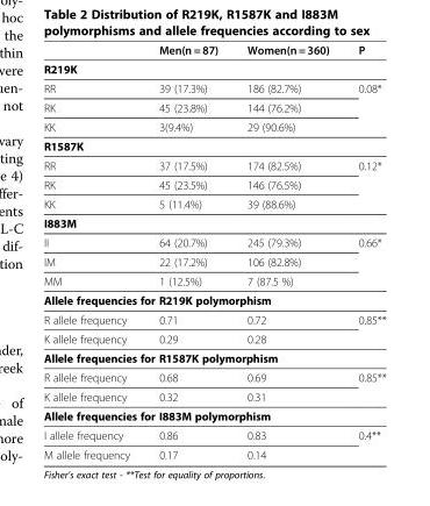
<table><thead><tr><td></td><td>Men(n = 87)</td><td>Women(n = 360)</td><td>P</td></tr></thead><tbody><tr><td colspan="4">R219K</td></tr><tr><td>RR</td><td>39 (17.3%)</td><td>186 (82.7%)</td><td rowspan="3">0.08*</td></tr><tr><td>RK</td><td>45 (23.8%)</td><td>144 (76.2%)</td></tr><tr><td>KK</td><td>3(9.4%)</td><td>29 (90.6%)</td></tr><tr><td colspan="4">R1587K</td></tr><tr><td>RR</td><td>37 (17.5%)</td><td>174 (82.5%)</td><td rowspan="3">0.12*</td></tr><tr><td>RK</td><td>45 (23.5%)</td><td>146 (76.5%)</td></tr><tr><td>KK</td><td>5 (11.4%)</td><td>39 (88.6%)</td></tr><tr><td colspan="4">I883M</td></tr><tr><td>II</td><td>64 (20.7%)</td><td>245 (79.3%)</td><td rowspan="3">0.66*</td></tr><tr><td>IM</td><td>22 (17.2%)</td><td>106 (82.8%)</td></tr><tr><td>MM</td><td>1 (12.5%)</td><td>7 (87.5 %)</td></tr><tr><td colspan="4">Allele frequencies for R219K polymorphism</td></tr><tr><td>R allele frequency</td><td>0.71</td><td>0.72</td><td rowspan="2">0.85**</td></tr><tr><td>K allele frequency</td><td>0.29</td><td>0.28</td></tr><tr><td colspan="4">Allele frequencies for R1587K polymorphism</td></tr><tr><td>R allele frequency</td><td>0.68</td><td>0.69</td><td rowspan="2">0.85**</td></tr><tr><td>K allele frequency</td><td>0.32</td><td>0.31</td></tr><tr><td colspan="4">Allele frequencies for I883M polymorphism</td></tr><tr><td>I allele frequency</td><td>0.86</td><td>0.83</td><td rowspan="2">0.4**</td></tr><tr><td>M allele frequency</td><td>0.17</td><td>0.14</td></tr></tbody></table>